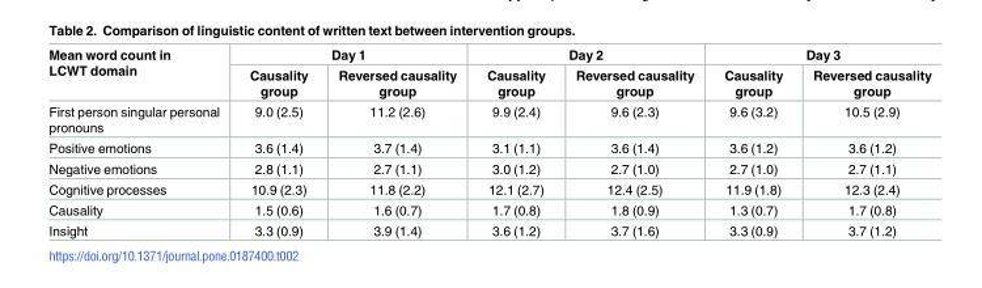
<table><thead><tr><td rowspan="2">Mean word count in LCWT domain</td><td colspan="2">Day 1</td><td colspan="2">Day 2</td><td colspan="2">Day 3</td></tr><tr><td>Causality group</td><td>Reversed causality group</td><td>Causality group</td><td>Reversed causality group</td><td>Causality group</td><td>Reversed causality group</td></tr></thead><tbody><tr><td>First person singular personal pronouns</td><td>9.0 (2.5)</td><td>11.2 (2.6)</td><td>9.9 (2.4)</td><td>9.6 (2.3)</td><td>9.6 (3.2)</td><td>10.5 (2.9)</td></tr><tr><td>Positive emotions</td><td>3.6 (1.4)</td><td>3.7 (1.4)</td><td>3.1 (1.1)</td><td>3.6 (1.4)</td><td>3.6 (1.2)</td><td>3.6 (1.2)</td></tr><tr><td>Negative emotions</td><td>2.8 (1.1)</td><td>2.7 (1.1)</td><td>3.0 (1.2)</td><td>2.7 (1.0)</td><td>2.7 (1.0)</td><td>2.7 (1.1)</td></tr><tr><td>Cognitive processes</td><td>10.9 (2.3)</td><td>11.8 (2.2)</td><td>12.1 (2.7)</td><td>12.4 (2.5)</td><td>11.9 (1.8)</td><td>12.3 (2.4)</td></tr><tr><td>Causality</td><td>1.5 (0.6)</td><td>1.6 (0.7)</td><td>1.7 (0.8)</td><td>1.8 (0.9)</td><td>1.3 (0.7)</td><td>1.7 (0.8)</td></tr><tr><td>Insight</td><td>3.3 (0.9)</td><td>3.9 (1.4)</td><td>3.6 (1.2)</td><td>3.7 (1.6)</td><td>3.3 (0.9)</td><td>3.7 (1.2)</td></tr></tbody></table>